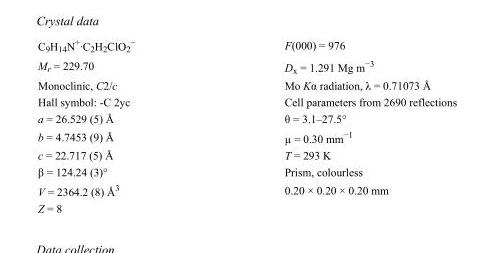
<table><tbody><tr><td>C<sub>9</sub>H<sub>14</sub>N<sup>+</sup>·C<sub>2</sub>H<sub>2</sub>ClO<sub>2</sub> <sup>−</sup></td><td>F(000) = 976</td></tr><tr><td>M<sub>r</sub> = 229.70</td><td>D<sub>x</sub> = 1.291 Mg m<sup>−3</sup></td></tr><tr><td>Monoclinic, C2/c</td><td>Mo Kα radiation, λ = 0.71073 Å</td></tr><tr><td>Hall symbol: -C 2yc</td><td>Cell parameters from 2690 reflections</td></tr><tr><td>a = 26.529 (5) Å</td><td>θ = 3.1–27.5°</td></tr><tr><td>b = 4.7453 (9) Å</td><td>µ = 0.30 mm<sup>−1</sup></td></tr><tr><td>c = 22.717 (5) Å</td><td>T = 293 K</td></tr><tr><td>β = 124.24 (3)°</td><td>Prism, colourless</td></tr><tr><td>V = 2364.2 (8) Å<sup>3</sup></td><td>0.20 × 0.20 × 0.20 mm</td></tr><tr><td>Z = 8</td><td></td></tr></tbody></table>